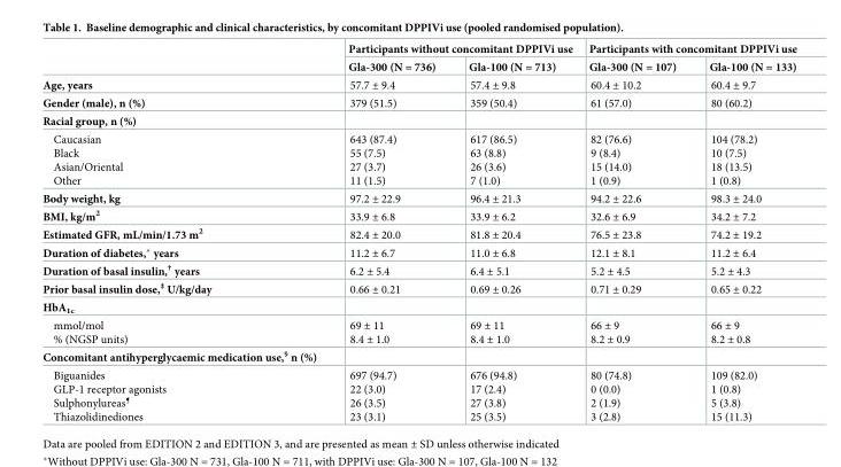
<table><thead><tr><td rowspan="2"></td><td colspan="2">Participants without concomitant DPPIVi use</td><td colspan="2">Participants with concomitant DPPIVi use</td></tr><tr><td>Gla-300 (N = 736)</td><td>Gla-100 (N = 713)</td><td>Gla-300 (N = 107)</td><td>Gla-100 (N = 133)</td></tr></thead><tbody><tr><td>Age, years</td><td>57.7 ± 9.4</td><td>57.4 ± 9.8</td><td>60.4 ± 10.2</td><td>60.4 ± 9.7</td></tr><tr><td>Gender (male), n (%)</td><td>379 (51.5)</td><td>359 (50.4)</td><td>61 (57.0)</td><td>80 (60.2)</td></tr><tr><td colspan="5">Racial group, n (%)</td></tr><tr><td>Caucasian Black Asian/Oriental Other</td><td>643 (87.4) 55 (7.5) 27 (3.7) 11 (1.5)</td><td>617 (86.5) 63 (8.8) 26 (3.6) 7 (1.0)</td><td>82 (76.6) 9 (8.4) 15 (14.0) 1 (0.9)</td><td>104 (78.2) 10 (7.5) 18 (13.5) 1 (0.8)</td></tr><tr><td>Body weight, kg</td><td>97.2 ± 22.9</td><td>96.4 ± 21.3</td><td>94.2 ± 22.6</td><td>98.3 ± 24.0</td></tr><tr><td>BMI, kg/m<sup>2</sup></td><td>33.9 ± 6.8</td><td>33.9 ± 6.2</td><td>32.6 ± 6.9</td><td>34.2 ± 7.2</td></tr><tr><td>Estimated GFR, mL/min/1.73 m<sup>2</sup></td><td>82.4 ± 20.0</td><td>81.8 ± 20.4</td><td>76.5 ± 23.8</td><td>74.2 ± 19.2</td></tr><tr><td>Duration of diabetes,* years</td><td>11.2 ± 6.7</td><td>11.0 ± 6.8</td><td>12.1 ± 8.1</td><td>11.2 ± 6.4</td></tr><tr><td>Duration of basal insulin,<sup>†</sup> years</td><td>6.2 ± 5.4</td><td>6.4 ± 5.1</td><td>5.2 ± 4.5</td><td>5.2 ± 4.3</td></tr><tr><td>Prior basal insulin dose,<sup>‡</sup> U/kg/day</td><td>0.66 ± 0.21</td><td>0.69 ± 0.26</td><td>0.71 ± 0.29</td><td>0.65 ± 0.22</td></tr><tr><td colspan="5">HbA<sub>1c</sub></td></tr><tr><td>mmol/mol % (NGSP units)</td><td>69 ± 11 8.4 ± 1.0</td><td>69 ± 11 8.4 ± 1.0</td><td>66 ± 9 8.2 ± 0.9</td><td>66 ± 9 8.2 ± 0.8</td></tr><tr><td colspan="5">Concomitant antihyperglycaemic medication use,<sup>§</sup> n (%)</td></tr><tr><td>Biguanides GLP-1 receptor agonists Sulphonylureas<sup>¶</sup> Thiazolidinediones</td><td>697 (94.7) 22 (3.0) 26 (3.5) 23 (3.1)</td><td>676 (94.8) 17 (2.4) 27 (3.8) 25 (3.5)</td><td>80 (74.8) 0 (0.0) 2 (1.9) 3 (2.8)</td><td>109 (82.0) 1 (0.8) 5 (3.8) 15 (11.3)</td></tr></tbody></table>